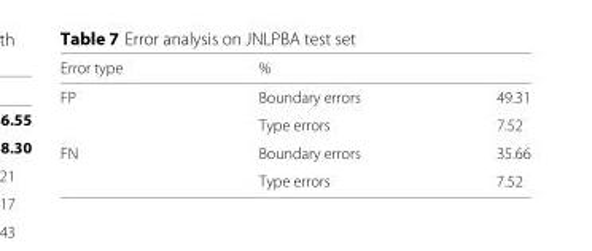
<table><thead><tr><td>Error type</td><td>%</td><td></td></tr></thead><tbody><tr><td rowspan="2">FP</td><td>Boundary errors</td><td>49.31</td></tr><tr><td>Type errors</td><td>7.52</td></tr><tr><td rowspan="2">FN</td><td>Boundary errors</td><td>35.66</td></tr><tr><td>Type errors</td><td>7.52</td></tr></tbody></table>